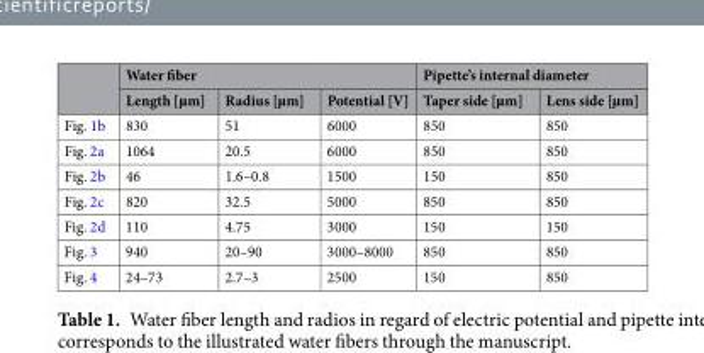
<table><thead><tr><td rowspan="2"></td><td colspan="3">Water fiber</td><td colspan="2">Pipette’s internal diameter</td></tr><tr><td>Length [µm]</td><td>Radius [µm]</td><td>Potential [V]</td><td>Taper side [µm]</td><td>Lens side [µm]</td></tr></thead><tbody><tr><td>Fig. 1b</td><td>830</td><td>51</td><td>6000</td><td>850</td><td>850</td></tr><tr><td>Fig. 2a</td><td>1064</td><td>20.5</td><td>6000</td><td>850</td><td>850</td></tr><tr><td>Fig. 2b</td><td>46</td><td>1.6–0.8</td><td>1500</td><td>150</td><td>850</td></tr><tr><td>Fig. 2c</td><td>820</td><td>32.5</td><td>5000</td><td>850</td><td>850</td></tr><tr><td>Fig. 2d</td><td>110</td><td>4.75</td><td>3000</td><td>150</td><td>150</td></tr><tr><td>Fig. 3</td><td>940</td><td>20–90</td><td>3000–8000</td><td>850</td><td>850</td></tr><tr><td>Fig. 4</td><td>24–73</td><td>2.7–3</td><td>2500</td><td>150</td><td>850</td></tr></tbody></table>